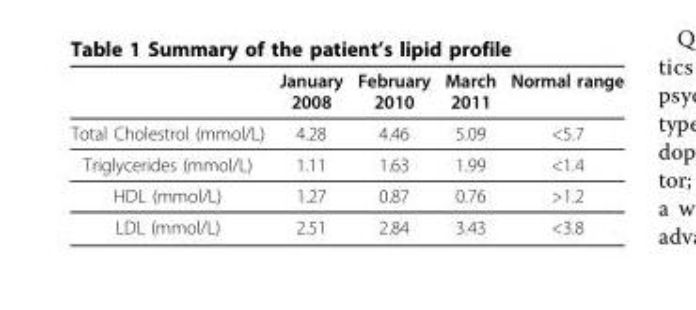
<table><thead><tr><td></td><td>January 2008</td><td>February 2010</td><td>March 2011</td><td>Normal range</td></tr></thead><tbody><tr><td>Total Cholestrol (mmol/L)</td><td>4.28</td><td>4.46</td><td>5.09</td><td>&lt;5.7</td></tr><tr><td>Triglycerides (mmol/L)</td><td>1.11</td><td>1.63</td><td>1.99</td><td>&lt;1.4</td></tr><tr><td>HDL (mmol/L)</td><td>1.27</td><td>0.87</td><td>0.76</td><td>&gt;1.2</td></tr><tr><td>LDL (mmol/L)</td><td>2.51</td><td>2.84</td><td>3.43</td><td>&lt;3.8</td></tr></tbody></table>